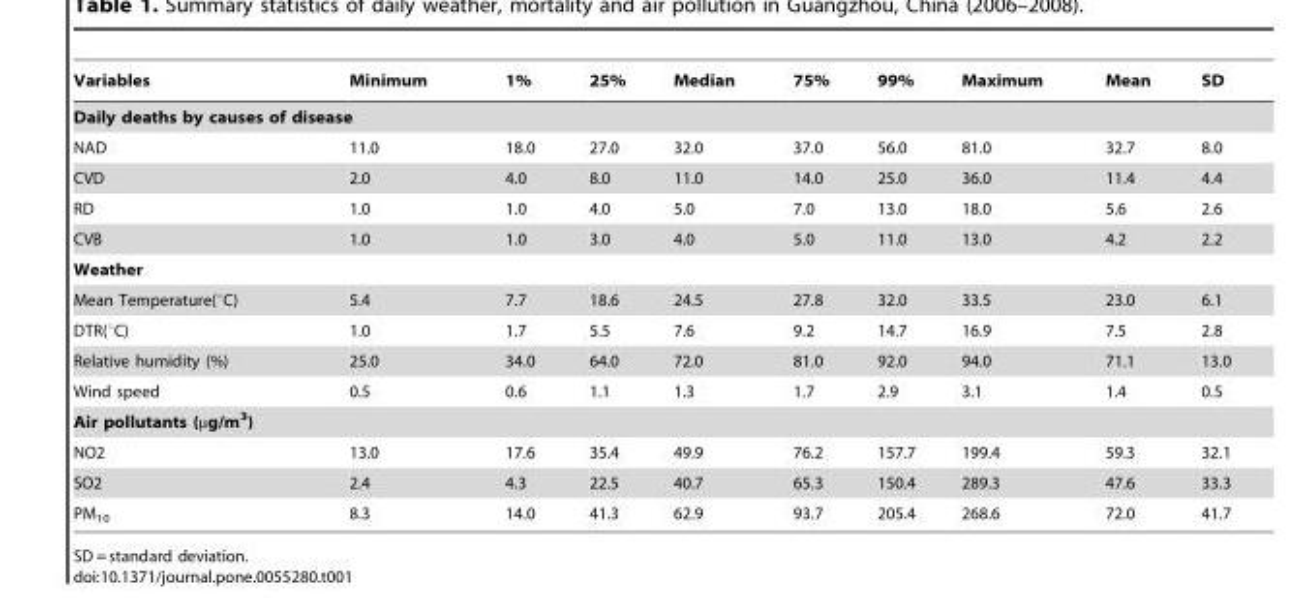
<table><thead><tr><td>Variables</td><td>Minimum</td><td>1%</td><td>25%</td><td>Median</td><td>75%</td><td>99%</td><td>Maximum</td><td>Mean</td><td>SD</td></tr></thead><tbody><tr><td colspan="10">Daily deaths by causes of disease</td></tr><tr><td>NAD</td><td>11.0</td><td>18.0</td><td>27.0</td><td>32.0</td><td>37.0</td><td>56.0</td><td>81.0</td><td>32.7</td><td>8.0</td></tr><tr><td>CVD</td><td>2.0</td><td>4.0</td><td>8.0</td><td>11.0</td><td>14.0</td><td>25.0</td><td>36.0</td><td>11.4</td><td>4.4</td></tr><tr><td>RD</td><td>1.0</td><td>1.0</td><td>4.0</td><td>5.0</td><td>7.0</td><td>13.0</td><td>18.0</td><td>5.6</td><td>2.6</td></tr><tr><td>CVB</td><td>1.0</td><td>1.0</td><td>3.0</td><td>4.0</td><td>5.0</td><td>11.0</td><td>13.0</td><td>4.2</td><td>2.2</td></tr><tr><td colspan="10">Weather</td></tr><tr><td>Mean Temperature(°C)</td><td>5.4</td><td>7.7</td><td>18.6</td><td>24.5</td><td>27.8</td><td>32.0</td><td>33.5</td><td>23.0</td><td>6.1</td></tr><tr><td>DTR(°C)</td><td>1.0</td><td>1.7</td><td>5.5</td><td>7.6</td><td>9.2</td><td>14.7</td><td>16.9</td><td>7.5</td><td>2.8</td></tr><tr><td>Relative humidity (%)</td><td>25.0</td><td>34.0</td><td>64.0</td><td>72.0</td><td>81.0</td><td>92.0</td><td>94.0</td><td>71.1</td><td>13.0</td></tr><tr><td>Wind speed</td><td>0.5</td><td>0.6</td><td>1.1</td><td>1.3</td><td>1.7</td><td>2.9</td><td>3.1</td><td>1.4</td><td>0.5</td></tr><tr><td colspan="10">Air pollutants (µg/m<sup>3</sup>)</td></tr><tr><td>NO2</td><td>13.0</td><td>17.6</td><td>35.4</td><td>49.9</td><td>76.2</td><td>157.7</td><td>199.4</td><td>59.3</td><td>32.1</td></tr><tr><td>SO2</td><td>2.4</td><td>4.3</td><td>22.5</td><td>40.7</td><td>65.3</td><td>150.4</td><td>289.3</td><td>47.6</td><td>33.3</td></tr><tr><td>PM<sub>10</sub></td><td>8.3</td><td>14.0</td><td>41.3</td><td>62.9</td><td>93.7</td><td>205.4</td><td>268.6</td><td>72.0</td><td>41.7</td></tr></tbody></table>